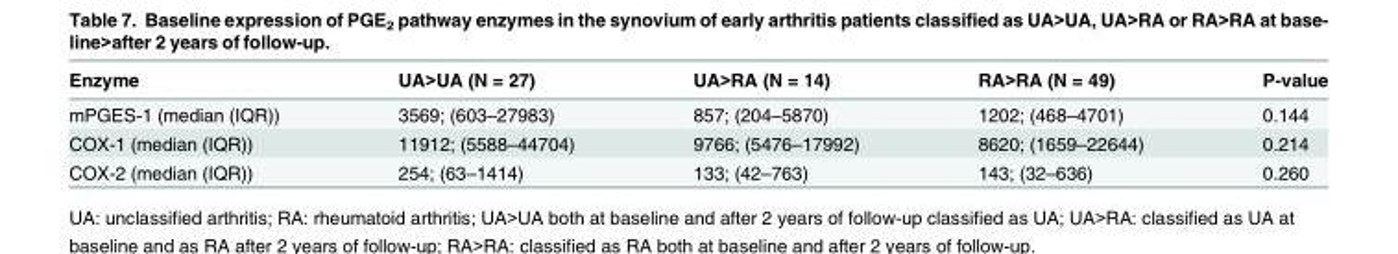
<table><thead><tr><td>Enzyme</td><td>UA&gt;UA (N = 27)</td><td>UA&gt;RA (N = 14)</td><td>RA&gt;RA (N = 49)</td><td>P-value</td></tr></thead><tbody><tr><td>mPGES-1 (median (IQR))</td><td>3569; (603–27983)</td><td>857; (204–5870)</td><td>1202; (468–4701)</td><td>0.144</td></tr><tr><td>COX-1 (median (IQR))</td><td>11912; (5588–44704)</td><td>9766; (5476–17992)</td><td>8620; (1659–22644)</td><td>0.214</td></tr><tr><td>COX-2 (median (IQR))</td><td>254; (63–1414)</td><td>133; (42–763)</td><td>143; (32–636)</td><td>0.260</td></tr></tbody></table>